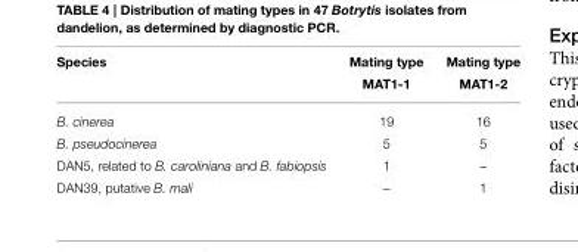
<table><thead><tr><td>Species</td><td>Mating type MAT1-1</td><td>Mating type MAT1-2</td></tr></thead><tbody><tr><td>B. cinerea</td><td>19</td><td>16</td></tr><tr><td>B. pseudocinerea</td><td>5</td><td>5</td></tr><tr><td>DAN5, related to B. caroliniana and B. fabiopsis</td><td>1</td><td>–</td></tr><tr><td>DAN39, putative B. mali</td><td>–</td><td>1</td></tr></tbody></table>